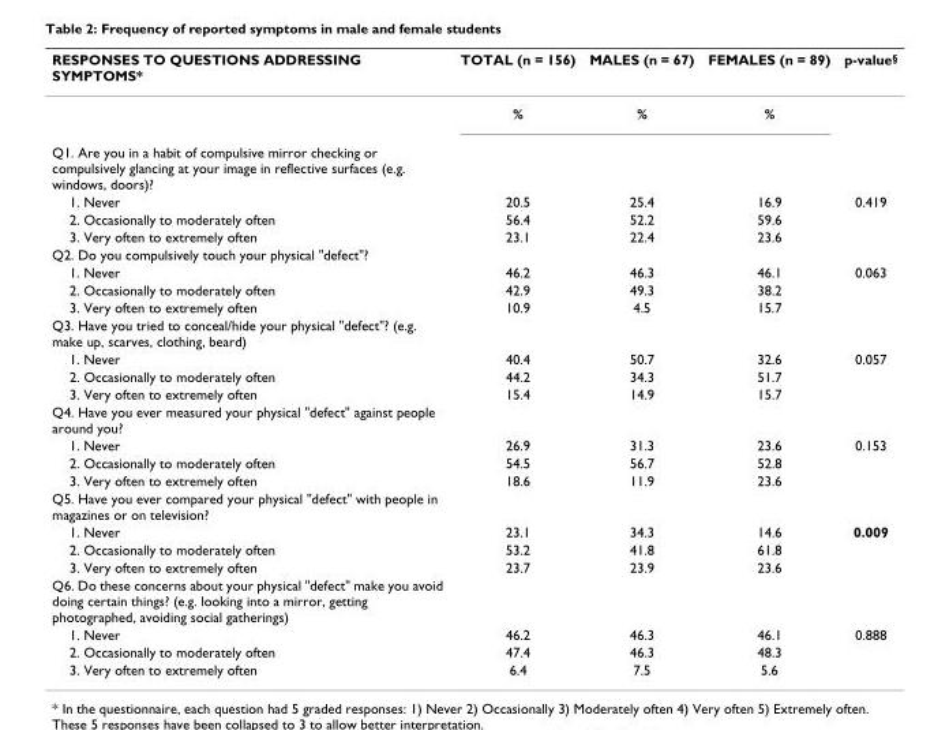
<table><thead><tr><td>RESPONSES TO QUESTIONS ADDRESSING SYMPTOMS*</td><td>TOTAL (n = 156)</td><td>MALES (n = 67)</td><td>FEMALES (n = 89)</td><td>p-value<sup>§</sup></td></tr></thead><tbody><tr><td></td><td>%</td><td>%</td><td>%</td><td></td></tr><tr><td colspan="5">Q1. Are you in a habit of compulsive mirror checking or compulsively glancing at your image in reflective surfaces (e.g. windows, doors)?</td></tr><tr><td>1. Never</td><td>20.5</td><td>25.4</td><td>16.9</td><td>0.419</td></tr><tr><td>2. Occasionally to moderately often</td><td>56.4</td><td>52.2</td><td>59.6</td><td></td></tr><tr><td>3. Very often to extremely often</td><td>23.1</td><td>22.4</td><td>23.6</td><td></td></tr><tr><td colspan="5">Q2. Do you compulsively touch your physical &quot;defect&quot;?</td></tr><tr><td>1. Never</td><td>46.2</td><td>46.3</td><td>46.1</td><td>0.063</td></tr><tr><td>2. Occasionally to moderately often</td><td>42.9</td><td>49.3</td><td>38.2</td><td></td></tr><tr><td>3. Very often to extremely often</td><td>10.9</td><td>4.5</td><td>15.7</td><td></td></tr><tr><td colspan="5">Q3. Have you tried to conceal/hide your physical &quot;defect&quot;? (e.g. make up, scarves, clothing, beard)</td></tr><tr><td>1. Never</td><td>40.4</td><td>50.7</td><td>32.6</td><td>0.057</td></tr><tr><td>2. Occasionally to moderately often</td><td>44.2</td><td>34.3</td><td>51.7</td><td></td></tr><tr><td>3. Very often to extremely often</td><td>15.4</td><td>14.9</td><td>15.7</td><td></td></tr><tr><td colspan="5">Q4. Have you ever measured your physical &quot;defect&quot; against people around you?</td></tr><tr><td>1. Never</td><td>26.9</td><td>31.3</td><td>23.6</td><td>0.153</td></tr><tr><td>2. Occasionally to moderately often</td><td>54.5</td><td>56.7</td><td>52.8</td><td></td></tr><tr><td>3. Very often to extremely often</td><td>18.6</td><td>11.9</td><td>23.6</td><td></td></tr><tr><td colspan="5">Q5. Have you ever compared your physical &quot;defect&quot; with people in magazines or on television?</td></tr><tr><td>1. Never</td><td>23.1</td><td>34.3</td><td>14.6</td><td>0.009</td></tr><tr><td>2. Occasionally to moderately often</td><td>53.2</td><td>41.8</td><td>61.8</td><td></td></tr><tr><td>3. Very often to extremely often</td><td>23.7</td><td>23.9</td><td>23.6</td><td></td></tr><tr><td colspan="5">Q6. Do these concerns about your physical &quot;defect&quot; make you avoid doing certain things? (e.g. looking into a mirror, getting photographed, avoiding social gatherings)</td></tr><tr><td>1. Never</td><td>46.2</td><td>46.3</td><td>46.1</td><td>0.888</td></tr><tr><td>2. Occasionally to moderately often</td><td>47.4</td><td>46.3</td><td>48.3</td><td></td></tr><tr><td>3. Very often to extremely often</td><td>6.4</td><td>7.5</td><td>5.6</td><td></td></tr></tbody></table>